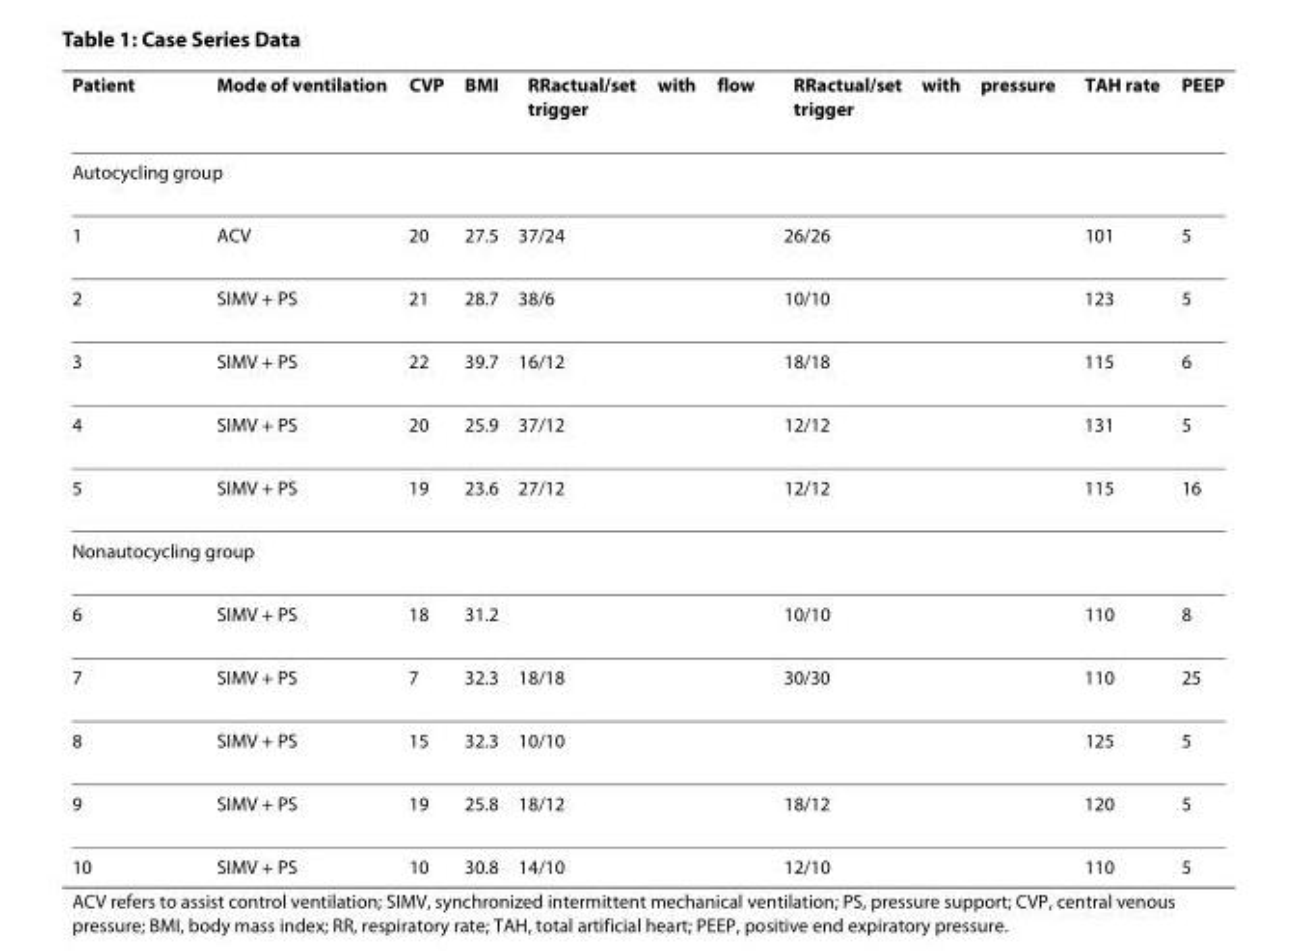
<table><thead><tr><td>Patient</td><td>Mode of ventilation</td><td>CVP</td><td>BMI</td><td>RR<sup>actual/set</sup> with flow trigger</td><td>RR<sup>actual/set</sup> with pressure trigger</td><td>TAH rate</td><td>PEEP</td></tr></thead><tbody><tr><td colspan="8">Autocycling group</td></tr><tr><td>1</td><td>ACV</td><td>20</td><td>27.5</td><td>37/24</td><td>26/26</td><td>101</td><td>5</td></tr><tr><td>2</td><td>SIMV + PS</td><td>21</td><td>28.7</td><td>38/6</td><td>10/10</td><td>123</td><td>5</td></tr><tr><td>3</td><td>SIMV + PS</td><td>22</td><td>39.7</td><td>16/12</td><td>18/18</td><td>115</td><td>6</td></tr><tr><td>4</td><td>SIMV + PS</td><td>20</td><td>25.9</td><td>37/12</td><td>12/12</td><td>131</td><td>5</td></tr><tr><td>5</td><td>SIMV + PS</td><td>19</td><td>23.6</td><td>27/12</td><td>12/12</td><td>115</td><td>16</td></tr><tr><td colspan="8">Nonautocycling group</td></tr><tr><td>6</td><td>SIMV + PS</td><td>18</td><td>31.2</td><td></td><td>10/10</td><td>110</td><td>8</td></tr><tr><td>7</td><td>SIMV + PS</td><td>7</td><td>32.3</td><td>18/18</td><td>30/30</td><td>110</td><td>25</td></tr><tr><td>8</td><td>SIMV + PS</td><td>15</td><td>32.3</td><td>10/10</td><td></td><td>125</td><td>5</td></tr><tr><td>9</td><td>SIMV + PS</td><td>19</td><td>25.8</td><td>18/12</td><td>18/12</td><td>120</td><td>5</td></tr><tr><td>10</td><td>SIMV + PS</td><td>10</td><td>30.8</td><td>14/10</td><td>12/10</td><td>110</td><td>5</td></tr></tbody></table>